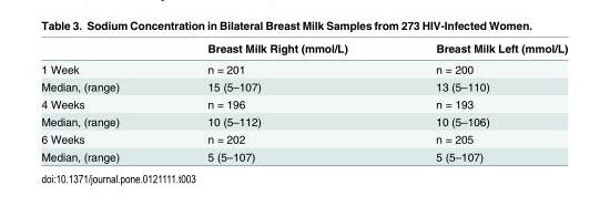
<table><thead><tr><td></td><td>Breast Milk Right (mmol/L)</td><td>Breast Milk Left (mmol/L)</td></tr></thead><tbody><tr><td>1 Week</td><td>n = 201</td><td>n = 200</td></tr><tr><td>Median, (range)</td><td>15 (5–107)</td><td>13 (5–110)</td></tr><tr><td>4 Weeks</td><td>n = 196</td><td>n = 193</td></tr><tr><td>Median, (range)</td><td>10 (5–112)</td><td>10 (5–106)</td></tr><tr><td>6 Weeks</td><td>n = 202</td><td>n = 205</td></tr><tr><td>Median, (range)</td><td>5 (5–107)</td><td>5 (5–107)</td></tr></tbody></table>